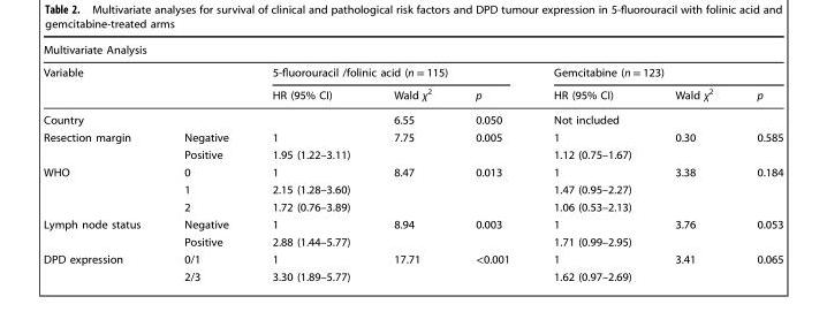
<table><thead><tr><td colspan="8">Multivariate Analysis</td></tr><tr><td rowspan="2">Variable</td><td rowspan="2"></td><td colspan="3">5-fluorouracil /folinic acid (n = 115)</td><td colspan="3">Gemcitabine (n = 123)</td></tr><tr><td>HR (95% CI)</td><td>Wald χ<sup>2</sup></td><td>p</td><td>HR (95% CI)</td><td>Wald χ<sup>2</sup></td><td>p</td></tr></thead><tbody><tr><td>Country</td><td></td><td></td><td>6.55</td><td>0.050</td><td>Not included</td><td></td><td></td></tr><tr><td rowspan="2">Resection margin</td><td>Negative</td><td>1</td><td rowspan="2">7.75</td><td rowspan="2">0.005</td><td>1</td><td rowspan="2">0.30</td><td rowspan="2">0.585</td></tr><tr><td>Positive</td><td>1.95 (1.22–3.11)</td><td>1.12 (0.75–1.67)</td></tr><tr><td rowspan="3">WHO</td><td>0</td><td>1</td><td rowspan="3">8.47</td><td rowspan="3">0.013</td><td>1</td><td rowspan="3">3.38</td><td rowspan="3">0.184</td></tr><tr><td>1</td><td>2.15 (1.28–3.60)</td><td>1.47 (0.95–2.27)</td></tr><tr><td>2</td><td>1.72 (0.76–3.89)</td><td>1.06 (0.53–2.13)</td></tr><tr><td rowspan="2">Lymph node status</td><td>Negative</td><td>1</td><td rowspan="2">8.94</td><td rowspan="2">0.003</td><td>1</td><td rowspan="2">3.76</td><td rowspan="2">0.053</td></tr><tr><td>Positive</td><td>2.88 (1.44–5.77)</td><td>1.71 (0.99–2.95)</td></tr><tr><td rowspan="2">DPD expression</td><td>0/1</td><td>1</td><td rowspan="2">17.71</td><td rowspan="2">&lt;0.001</td><td>1</td><td rowspan="2">3.41</td><td rowspan="2">0.065</td></tr><tr><td>2/3</td><td>3.30 (1.89–5.77)</td><td>1.62 (0.97–2.69)</td></tr></tbody></table>